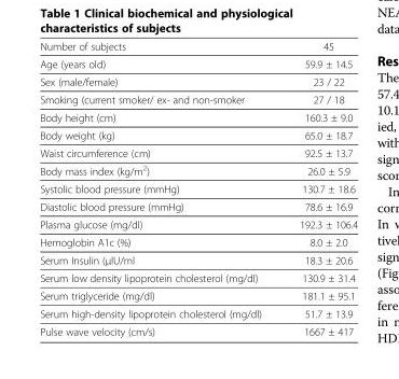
<table><tbody><tr><td>Number of subjects</td><td>45</td></tr><tr><td>Age (years old)</td><td>59.9 ± 14.5</td></tr><tr><td>Sex (male/female)</td><td>23 / 22</td></tr><tr><td>Smoking (current smoker/ ex- and non-smoker</td><td>27 / 18</td></tr><tr><td>Body height (cm)</td><td>160.3 ± 9.0</td></tr><tr><td>Body weight (kg)</td><td>65.0 ± 18.7</td></tr><tr><td>Waist circumference (cm)</td><td>92.5 ± 13.7</td></tr><tr><td>Body mass index (kg/m<sup>2</sup>)</td><td>26.0 ± 5.9</td></tr><tr><td>Systolic blood pressure (mmHg)</td><td>130.7 ± 18.6</td></tr><tr><td>Diastolic blood pressure (mmHg)</td><td>78.6 ± 16.9</td></tr><tr><td>Plasma glucose (mg/dl)</td><td>192.3 ± 106.4</td></tr><tr><td>Hemoglobin A1c (%)</td><td>8.0 ± 2.0</td></tr><tr><td>Serum Insulin (μlU/ml</td><td>18.3 ± 20.6</td></tr><tr><td>Serum low density lipoprotein cholesterol (mg/dl)</td><td>130.9 ± 31.4</td></tr><tr><td>Serum triglyceride (mg/dl)</td><td>181.1 ± 95.1</td></tr><tr><td>Serum high-density lipoprotein cholesterol (mg/dl)</td><td>51.7 ± 13.9</td></tr><tr><td>Pulse wave velocity (cm/s)</td><td>1667 ± 417</td></tr></tbody></table>